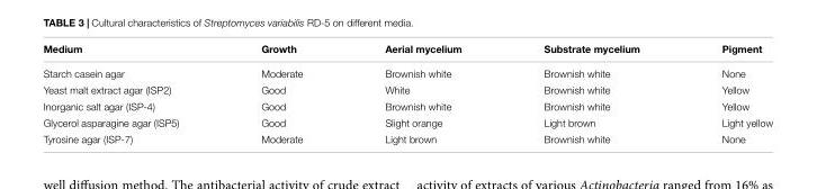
<table><thead><tr><td>Medium</td><td>Growth</td><td>Aerial mycelium</td><td>Substrate mycelium</td><td>Pigment</td></tr></thead><tbody><tr><td>Starch casein agar</td><td>Moderate</td><td>Brownish white</td><td>Brownish white</td><td>None</td></tr><tr><td>Yeast malt extract agar (ISP2)</td><td>Good</td><td>White</td><td>Brownish white</td><td>Yellow</td></tr><tr><td>Inorganic salt agar (ISP-4)</td><td>Good</td><td>Brownish white</td><td>Brownish white</td><td>Yellow</td></tr><tr><td>Glycerol asparagine agar (ISP5)</td><td>Good</td><td>Slight orange</td><td>Light brown</td><td>Light yellow</td></tr><tr><td>Tyrosine agar (ISP-7)</td><td>Moderate</td><td>Light brown</td><td>Brownish white</td><td>None</td></tr></tbody></table>